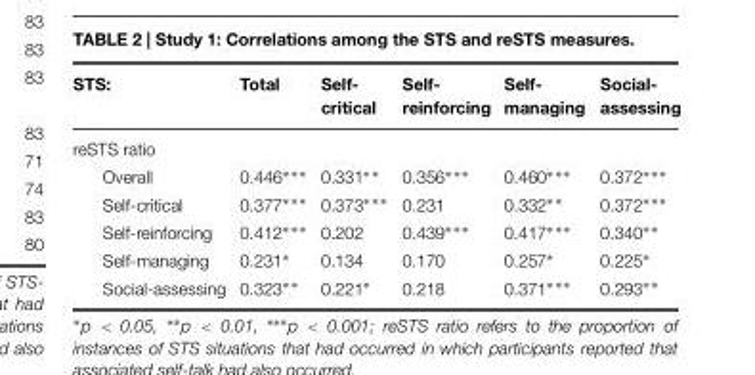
<table><thead><tr><td>STS:</td><td>Total</td><td>Self- critical</td><td>Self- reinforcing</td><td>Self- managing</td><td>Social- assessing</td></tr></thead><tbody><tr><td colspan="6">reSTS ratio</td></tr><tr><td>Overall</td><td>0.446∗∗∗</td><td>0.331∗∗</td><td>0.356∗∗∗</td><td>0.460∗∗∗</td><td>0.372∗∗∗</td></tr><tr><td>Self-critical</td><td>0.377∗∗∗</td><td>0.373∗∗∗</td><td>0.231</td><td>0.332∗∗</td><td>0.372∗∗∗</td></tr><tr><td>Self-reinforcing</td><td>0.412∗∗∗</td><td>0.202</td><td>0.439∗∗∗</td><td>0.417∗∗∗</td><td>0.340∗∗</td></tr><tr><td>Self-managing</td><td>0.231∗</td><td>0.134</td><td>0.170</td><td>0.257∗</td><td>0.225∗</td></tr><tr><td>Social-assessing</td><td>0.323∗∗</td><td>0.221∗</td><td>0.218</td><td>0.371∗∗∗</td><td>0.293∗∗</td></tr></tbody></table>